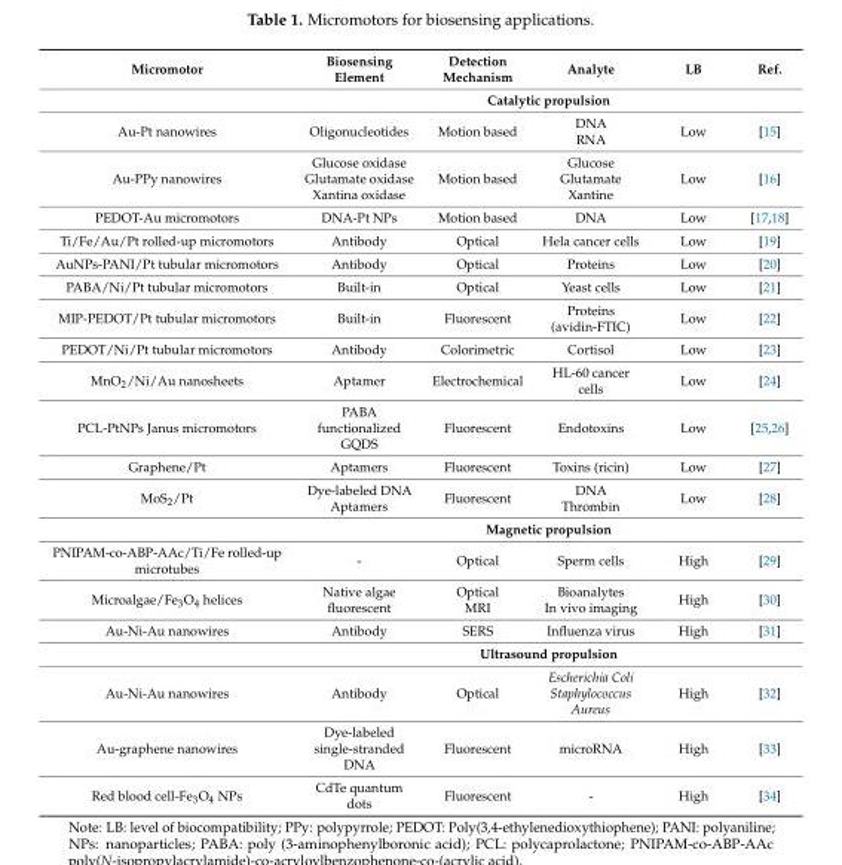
<table><thead><tr><td>Micromotor</td><td>Biosensing Element</td><td>Detection Mechanism</td><td>Analyte</td><td>LB</td><td>Ref.</td></tr></thead><tbody><tr><td></td><td colspan="5">Catalytic propulsion</td></tr><tr><td>Au-Pt nanowires</td><td>Oligonucleotides</td><td>Motion based</td><td>DNA RNA</td><td>Low</td><td>[15]</td></tr><tr><td>Au-PPy nanowires</td><td>Glucose oxidase Glutamate oxidase Xantina oxidase</td><td>Motion based</td><td>Glucose Glutamate Xantine</td><td>Low</td><td>[16]</td></tr><tr><td>PEDOT-Au micromotors</td><td>DNA-Pt NPs</td><td>Motion based</td><td>DNA</td><td>Low</td><td>[17,18]</td></tr><tr><td>Ti/Fe/Au/Pt rolled-up micromotors</td><td>Antibody</td><td>Optical</td><td>Hela cancer cells</td><td>Low</td><td>[19]</td></tr><tr><td>AuNPs-PANI/Pt tubular micromotors</td><td>Antibody</td><td>Optical</td><td>Proteins</td><td>Low</td><td>[20]</td></tr><tr><td>PABA/Ni/Pt tubular micromotors</td><td>Built-in</td><td>Optical</td><td>Yeast cells</td><td>Low</td><td>[21]</td></tr><tr><td>MIP-PEDOT/Pt tubular micromotors</td><td>Built-in</td><td>Fluorescent</td><td>Proteins (avidin-FTIC)</td><td>Low</td><td>[22]</td></tr><tr><td>PEDOT/Ni/Pt tubular micromotors</td><td>Antibody</td><td>Colorimetric</td><td>Cortisol</td><td>Low</td><td>[23]</td></tr><tr><td>MnO<sub>2</sub>/Ni/Au nanosheets</td><td>Aptamer</td><td>Electrochemical</td><td>HL-60 cancer cells</td><td>Low</td><td>[24]</td></tr><tr><td>PCL-PtNPs Janus micromotors</td><td>PABA functionalized GQDS</td><td>Fluorescent</td><td>Endotoxins</td><td>Low</td><td>[25,26]</td></tr><tr><td>Graphene/Pt</td><td>Aptamers</td><td>Fluorescent</td><td>Toxins (ricin)</td><td>Low</td><td>[27]</td></tr><tr><td rowspan="2">MoS<sub>2</sub>/Pt</td><td>Dye-labeled DNA Aptamers</td><td>Fluorescent</td><td>DNA Thrombin</td><td>Low</td><td>[28]</td></tr><tr><td colspan="5">Magnetic propulsion</td></tr><tr><td>PNIPAM-co-ABP-AAc/Ti/Fe rolled-up microtubes</td><td>-</td><td>Optical</td><td>Sperm cells</td><td>High</td><td>[29]</td></tr><tr><td>Microalgae/Fe<sub>3</sub>O<sub>4</sub> helices</td><td>Native algae fluorescent</td><td>Optical MRI</td><td>Bioanalytes In vivo imaging</td><td>High</td><td>[30]</td></tr><tr><td rowspan="2">Au-Ni-Au nanowires</td><td>Antibody</td><td>SERS</td><td>Influenza virus</td><td>High</td><td>[31]</td></tr><tr><td colspan="5">Ultrasound propulsion</td></tr><tr><td>Au-Ni-Au nanowires</td><td>Antibody</td><td>Optical</td><td>Escherichia Coli Staphylococcus Aureus</td><td>High</td><td>[32]</td></tr><tr><td>Au-graphene nanowires</td><td>Dye-labeled single-stranded DNA</td><td>Fluorescent</td><td>microRNA</td><td>High</td><td>[33]</td></tr><tr><td>Red blood cell-Fe<sub>3</sub>O<sub>4</sub> NPs</td><td>CdTe quantum dots</td><td>Fluorescent</td><td>-</td><td>High</td><td>[34]</td></tr></tbody></table>